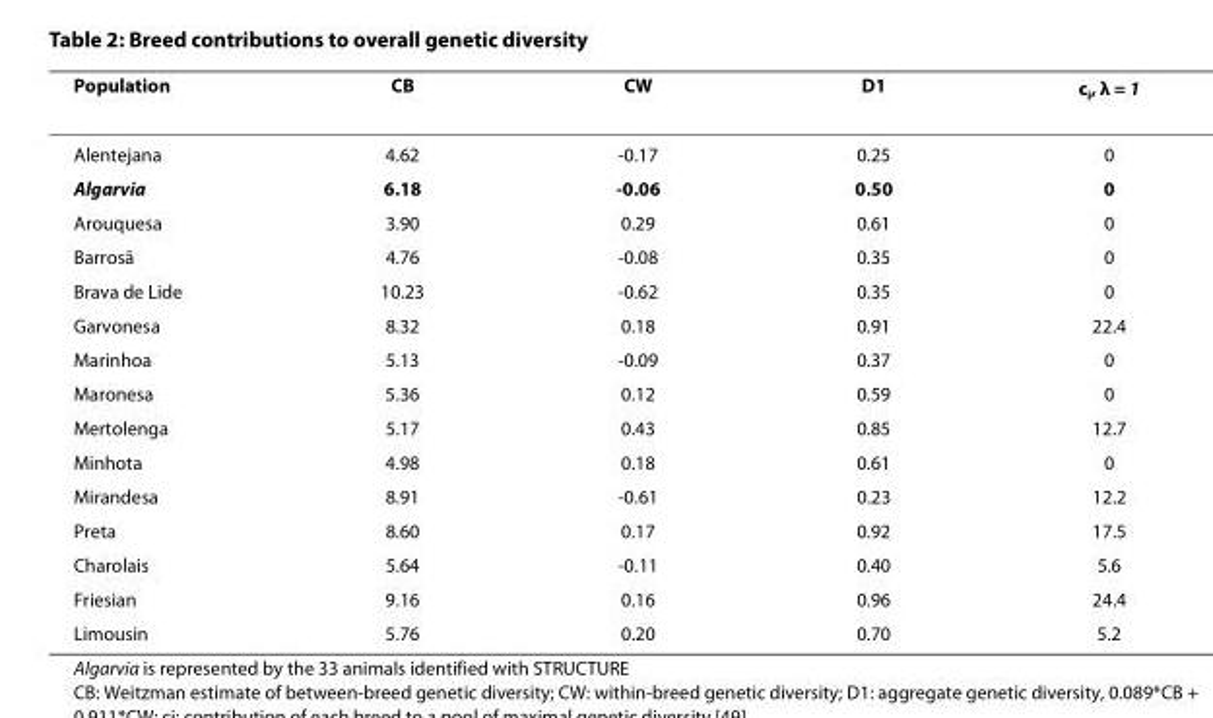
<table><thead><tr><td>Population</td><td>CB</td><td>CW</td><td>D1</td><td>c<sub>i</sub>, λ = 1</td></tr></thead><tbody><tr><td>Alentejana</td><td>4.62</td><td>-0.17</td><td>0.25</td><td>0</td></tr><tr><td>Algarvia</td><td>6.18</td><td>-0.06</td><td>0.50</td><td>0</td></tr><tr><td>Arouquesa</td><td>3.90</td><td>0.29</td><td>0.61</td><td>0</td></tr><tr><td>Barrosã</td><td>4.76</td><td>-0.08</td><td>0.35</td><td>0</td></tr><tr><td>Brava de Lide</td><td>10.23</td><td>-0.62</td><td>0.35</td><td>0</td></tr><tr><td>Garvonesa</td><td>8.32</td><td>0.18</td><td>0.91</td><td>22.4</td></tr><tr><td>Marinhoa</td><td>5.13</td><td>-0.09</td><td>0.37</td><td>0</td></tr><tr><td>Maronesa</td><td>5.36</td><td>0.12</td><td>0.59</td><td>0</td></tr><tr><td>Mertolenga</td><td>5.17</td><td>0.43</td><td>0.85</td><td>12.7</td></tr><tr><td>Minhota</td><td>4.98</td><td>0.18</td><td>0.61</td><td>0</td></tr><tr><td>Mirandesa</td><td>8.91</td><td>-0.61</td><td>0.23</td><td>12.2</td></tr><tr><td>Preta</td><td>8.60</td><td>0.17</td><td>0.92</td><td>17.5</td></tr><tr><td>Charolais</td><td>5.64</td><td>-0.11</td><td>0.40</td><td>5.6</td></tr><tr><td>Friesian</td><td>9.16</td><td>0.16</td><td>0.96</td><td>24.4</td></tr><tr><td>Limousin</td><td>5.76</td><td>0.20</td><td>0.70</td><td>5.2</td></tr></tbody></table>